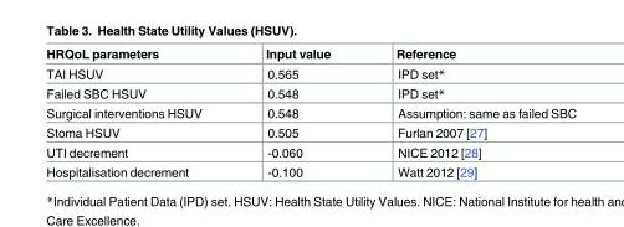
<table><thead><tr><td>HRQoL parameters</td><td>Input value</td><td>Reference</td></tr></thead><tbody><tr><td>TAI HSUV</td><td>0.565</td><td>IPD set*</td></tr><tr><td>Failed SBC HSUV</td><td>0.548</td><td>IPD set*</td></tr><tr><td>Surgical interventions HSUV</td><td>0.548</td><td>Assumption: same as failed SBC</td></tr><tr><td>Stoma HSUV</td><td>0.505</td><td>Furlan 2007 [27]</td></tr><tr><td>UTI decrement</td><td>-0.060</td><td>NICE 2012 [28]</td></tr><tr><td>Hospitalisation decrement</td><td>-0.100</td><td>Watt 2012 [29]</td></tr></tbody></table>